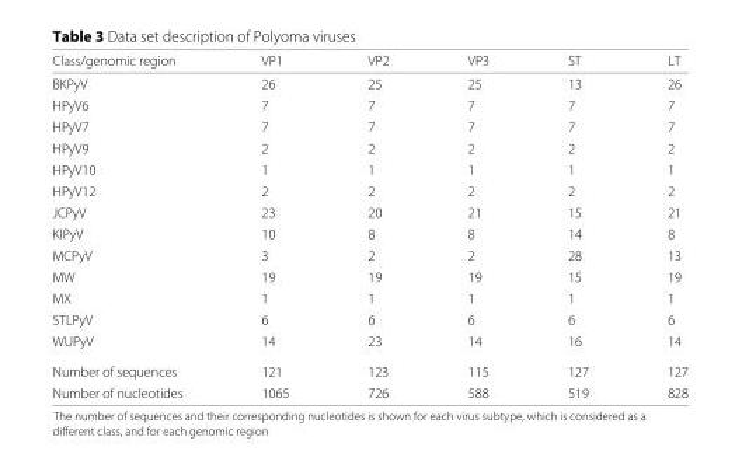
<table><thead><tr><td>Class/genomic region</td><td>VP1</td><td>VP2</td><td>VP3</td><td>ST</td><td>LT</td></tr></thead><tbody><tr><td>BKPyV</td><td>26</td><td>25</td><td>25</td><td>13</td><td>26</td></tr><tr><td>HPyV6</td><td>7</td><td>7</td><td>7</td><td>7</td><td>7</td></tr><tr><td>HPyV7</td><td>7</td><td>7</td><td>7</td><td>7</td><td>7</td></tr><tr><td>HPyV9</td><td>2</td><td>2</td><td>2</td><td>2</td><td>2</td></tr><tr><td>HPyV10</td><td>1</td><td>1</td><td>1</td><td>1</td><td>1</td></tr><tr><td>HPyV12</td><td>2</td><td>2</td><td>2</td><td>2</td><td>2</td></tr><tr><td>JCPyV</td><td>23</td><td>20</td><td>21</td><td>15</td><td>21</td></tr><tr><td>KIPyV</td><td>10</td><td>8</td><td>8</td><td>14</td><td>8</td></tr><tr><td>MCPyV</td><td>3</td><td>2</td><td>2</td><td>28</td><td>13</td></tr><tr><td>MW</td><td>19</td><td>19</td><td>19</td><td>15</td><td>19</td></tr><tr><td>MX</td><td>1</td><td>1</td><td>1</td><td>1</td><td>1</td></tr><tr><td>STLPyV</td><td>6</td><td>6</td><td>6</td><td>6</td><td>6</td></tr><tr><td>WUPyV</td><td>14</td><td>23</td><td>14</td><td>16</td><td>14</td></tr><tr><td>Number of sequences</td><td>121</td><td>123</td><td>115</td><td>127</td><td>127</td></tr><tr><td>Number of nucleotides</td><td>1065</td><td>726</td><td>588</td><td>519</td><td>828</td></tr></tbody></table>